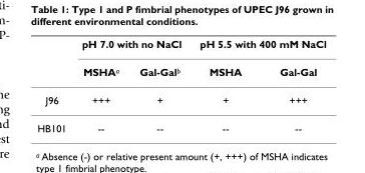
<table><thead><tr><td rowspan="2"></td><td colspan="2">pH 7.0 with no NaCl</td><td colspan="2">pH 5.5 with 400 mM NaCl</td></tr><tr><td>MSHA<sup>a</sup></td><td>Gal-Gal<sup>b</sup></td><td>MSHA</td><td>Gal-Gal</td></tr></thead><tbody><tr><td>J96</td><td>+++</td><td>+</td><td>+</td><td>+++</td></tr><tr><td>HB101</td><td>--</td><td>--</td><td>--</td><td>--</td></tr></tbody></table>